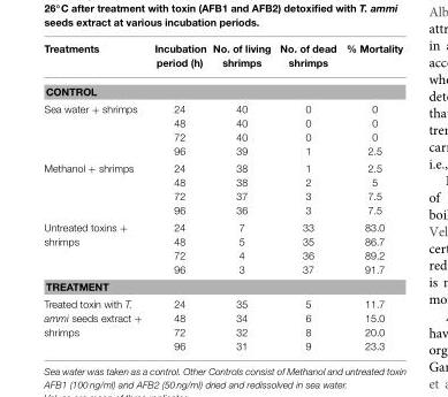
<table><thead><tr><td>Treatments</td><td>Incubation period (h)</td><td>No. of living shrimps</td><td>No. of dead shrimps</td><td>% Mortality</td></tr></thead><tbody><tr><td colspan="5">CONTROL</td></tr><tr><td>Sea water + shrimps</td><td>24 48 72 96</td><td>40 40 40 39</td><td>0 0 0 1</td><td>0 0 0 2.5</td></tr><tr><td>Methanol + shrimps</td><td>24 48 72 96</td><td>38 38 37 36</td><td>1 2 3 3</td><td>2.5 5 7.5 7.5</td></tr><tr><td>Untreated toxins + shrimps</td><td>24 48 72 96</td><td>7 5 4 3</td><td>33 35 36 37</td><td>83.0 86.7 89.2 91.7</td></tr><tr><td colspan="5">TREATMENT</td></tr><tr><td>Treated toxin with T. ammi seeds extract + shrimps</td><td>24 48 72 96</td><td>35 34 32 31</td><td>5 6 8 9</td><td>11.7 15.0 20.0 23.3</td></tr></tbody></table>